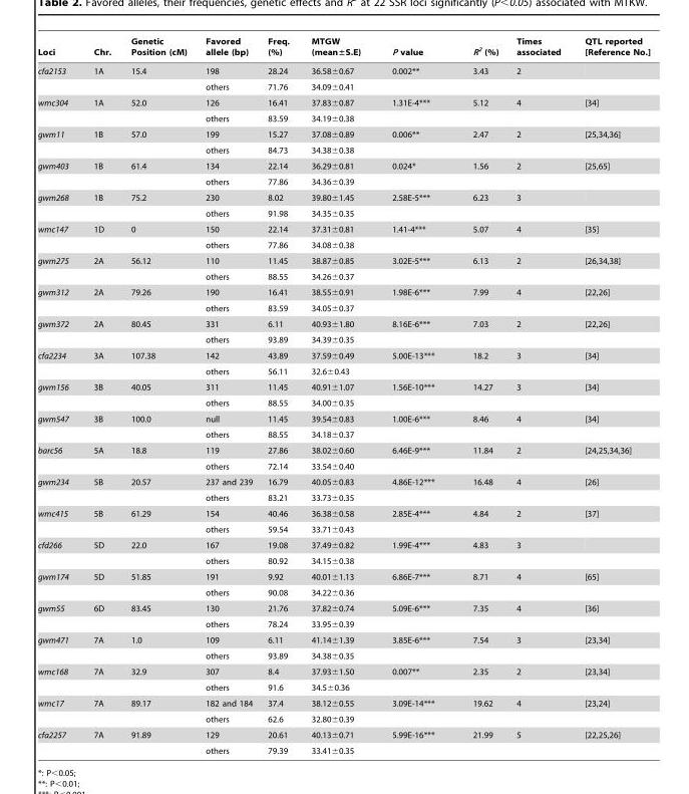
<table><thead><tr><td>Loci</td><td>Chr.</td><td>Genetic Position (cM)</td><td>Favored allele (bp)</td><td>Freq. (%)</td><td>MTGW (mean±S.E)</td><td>P value</td><td>R<sup>2</sup> (%)</td><td>Times associated</td><td>QTL reported [Reference No.]</td></tr></thead><tbody><tr><td rowspan="2">cfa2153</td><td>1A</td><td>15.4</td><td>198</td><td>28.24</td><td>36.58±0.67</td><td>0.002**</td><td>3.43</td><td>2</td><td></td></tr><tr><td></td><td></td><td>others</td><td>71.76</td><td>34.09±0.41</td><td></td><td></td><td></td><td></td></tr><tr><td rowspan="2">wmc304</td><td>1A</td><td>52.0</td><td>126</td><td>16.41</td><td>37.83±0.87</td><td>1.31E-4***</td><td>5.12</td><td>4</td><td>[34]</td></tr><tr><td></td><td></td><td>others</td><td>83.59</td><td>34.19±0.38</td><td></td><td></td><td></td><td></td></tr><tr><td rowspan="2">gwm11</td><td>1B</td><td>57.0</td><td>199</td><td>15.27</td><td>37.08±0.89</td><td>0.006**</td><td>2.47</td><td>2</td><td>[25,34,36]</td></tr><tr><td></td><td></td><td>others</td><td>84.73</td><td>34.38±0.38</td><td></td><td></td><td></td><td></td></tr><tr><td rowspan="2">gwm403</td><td>1B</td><td>61.4</td><td>134</td><td>22.14</td><td>36.29±0.81</td><td>0.024*</td><td>1.56</td><td>2</td><td>[25,65]</td></tr><tr><td></td><td></td><td>others</td><td>77.86</td><td>34.36±0.39</td><td></td><td></td><td></td><td></td></tr><tr><td rowspan="2">gwm268</td><td>1B</td><td>75.2</td><td>230</td><td>8.02</td><td>39.80±1.45</td><td>2.58E-5***</td><td>6.23</td><td>3</td><td></td></tr><tr><td></td><td></td><td>others</td><td>91.98</td><td>34.35±0.35</td><td></td><td></td><td></td><td></td></tr><tr><td rowspan="2">wmc147</td><td>1D</td><td>0</td><td>150</td><td>22.14</td><td>37.31±0.81</td><td>1.41-4***</td><td>5.07</td><td>4</td><td>[35]</td></tr><tr><td></td><td></td><td>others</td><td>77.86</td><td>34.08±0.38</td><td></td><td></td><td></td><td></td></tr><tr><td rowspan="2">gwm275</td><td>2A</td><td>56.12</td><td>110</td><td>11.45</td><td>38.87±0.85</td><td>3.02E-5***</td><td>6.13</td><td>2</td><td>[26,34,38]</td></tr><tr><td></td><td></td><td>others</td><td>88.55</td><td>34.26±0.37</td><td></td><td></td><td></td><td></td></tr><tr><td rowspan="2">gwm312</td><td>2A</td><td>79.26</td><td>190</td><td>16.41</td><td>38.55±0.91</td><td>1.98E-6***</td><td>7.99</td><td>4</td><td>[22,26]</td></tr><tr><td></td><td></td><td>others</td><td>83.59</td><td>34.05±0.37</td><td></td><td></td><td></td><td></td></tr><tr><td rowspan="2">gwm372</td><td>2A</td><td>80.45</td><td>331</td><td>6.11</td><td>40.93±1.80</td><td>8.16E-6***</td><td>7.03</td><td>2</td><td>[22,26]</td></tr><tr><td></td><td></td><td>others</td><td>93.89</td><td>34.39±0.35</td><td></td><td></td><td></td><td></td></tr><tr><td rowspan="2">cfa2234</td><td>3A</td><td>107.38</td><td>142</td><td>43.89</td><td>37.59±0.49</td><td>5.00E-13***</td><td>18.2</td><td>3</td><td>[34]</td></tr><tr><td></td><td></td><td>others</td><td>56.11</td><td>32.6±0.43</td><td></td><td></td><td></td><td></td></tr><tr><td rowspan="2">gwm156</td><td>3B</td><td>40.05</td><td>311</td><td>11.45</td><td>40.91±1.07</td><td>1.56E-10***</td><td>14.27</td><td>3</td><td>[34]</td></tr><tr><td></td><td></td><td>others</td><td>88.55</td><td>34.00±0.35</td><td></td><td></td><td></td><td></td></tr><tr><td rowspan="2">gwm547</td><td>3B</td><td>100.0</td><td>null</td><td>11.45</td><td>39.54±0.83</td><td>1.00E-6***</td><td>8.46</td><td>4</td><td>[34]</td></tr><tr><td></td><td></td><td>others</td><td>88.55</td><td>34.18±0.37</td><td></td><td></td><td></td><td></td></tr><tr><td rowspan="2">barc56</td><td>5A</td><td>18.8</td><td>119</td><td>27.86</td><td>38.02±0.60</td><td>6.46E-9***</td><td>11.84</td><td>2</td><td>[24,25,34,36]</td></tr><tr><td></td><td></td><td>others</td><td>72.14</td><td>33.54±0.40</td><td></td><td></td><td></td><td></td></tr><tr><td rowspan="2">gwm234</td><td>5B</td><td>20.57</td><td>237 and 239</td><td>16.79</td><td>40.05±0.83</td><td>4.86E-12***</td><td>16.48</td><td>4</td><td>[26]</td></tr><tr><td></td><td></td><td>others</td><td>83.21</td><td>33.73±0.35</td><td></td><td></td><td></td><td></td></tr><tr><td rowspan="2">wmc415</td><td>5B</td><td>61.29</td><td>154</td><td>40.46</td><td>36.38±0.58</td><td>2.85E-4***</td><td>4.84</td><td>2</td><td>[37]</td></tr><tr><td></td><td></td><td>others</td><td>59.54</td><td>33.71±0.43</td><td></td><td></td><td></td><td></td></tr><tr><td rowspan="2">cfd266</td><td>5D</td><td>22.0</td><td>167</td><td>19.08</td><td>37.49±0.82</td><td>1.99E-4***</td><td>4.83</td><td>3</td><td></td></tr><tr><td></td><td></td><td>others</td><td>80.92</td><td>34.15±0.38</td><td></td><td></td><td></td><td></td></tr><tr><td rowspan="2">gwm174</td><td>5D</td><td>51.85</td><td>191</td><td>9.92</td><td>40.01±1.13</td><td>6.86E-7***</td><td>8.71</td><td>4</td><td>[65]</td></tr><tr><td></td><td></td><td>others</td><td>90.08</td><td>34.22±0.36</td><td></td><td></td><td></td><td></td></tr><tr><td rowspan="2">gwm55</td><td>6D</td><td>83.45</td><td>130</td><td>21.76</td><td>37.82±0.74</td><td>5.09E-6***</td><td>7.35</td><td>4</td><td>[36]</td></tr><tr><td></td><td></td><td>others</td><td>78.24</td><td>33.95±0.39</td><td></td><td></td><td></td><td></td></tr><tr><td rowspan="2">gwm471</td><td>7A</td><td>1.0</td><td>109</td><td>6.11</td><td>41.14±1.39</td><td>3.85E-6***</td><td>7.54</td><td>3</td><td>[23,34]</td></tr><tr><td></td><td></td><td>others</td><td>93.89</td><td>34.38±0.35</td><td></td><td></td><td></td><td></td></tr><tr><td rowspan="2">wmc168</td><td>7A</td><td>32.9</td><td>307</td><td>8.4</td><td>37.93±1.50</td><td>0.007**</td><td>2.35</td><td>2</td><td>[23,34]</td></tr><tr><td></td><td></td><td>others</td><td>91.6</td><td>34.5±0.36</td><td></td><td></td><td></td><td></td></tr><tr><td rowspan="2">wmc17</td><td>7A</td><td>89.17</td><td>182 and 184</td><td>37.4</td><td>38.12±0.55</td><td>3.09E-14***</td><td>19.62</td><td>4</td><td>[23,24]</td></tr><tr><td></td><td></td><td>others</td><td>62.6</td><td>32.80±0.39</td><td></td><td></td><td></td><td></td></tr><tr><td rowspan="2">cfa2257</td><td>7A</td><td>91.89</td><td>129</td><td>20.61</td><td>40.13±0.71</td><td>5.99E-16***</td><td>21.99</td><td>5</td><td>[22,25,26]</td></tr><tr><td></td><td></td><td>others</td><td>79.39</td><td>33.41±0.35</td><td></td><td></td><td></td><td></td></tr></tbody></table>